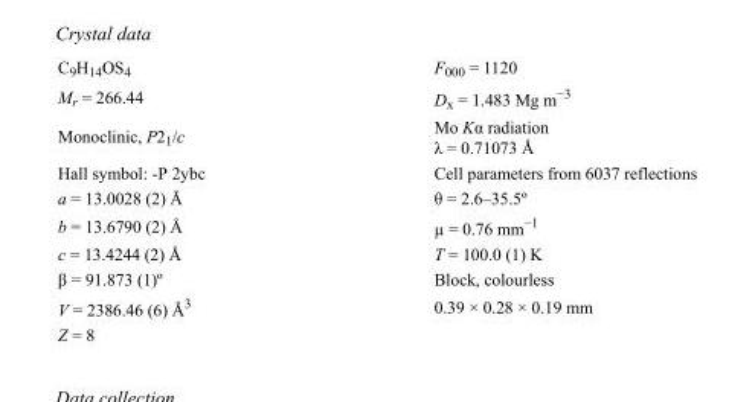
<table><tbody><tr><td>C<sub>9</sub>H<sub>14</sub>OS<sub>4</sub></td><td>F000 = 1120</td></tr><tr><td>M<sub>r</sub> = 266.44</td><td>D<sub>x</sub> = 1.483 Mg m<sup>−3</sup></td></tr><tr><td>Monoclinic, P2<sub>1</sub>/c</td><td>Mo Kα radiation λ = 0.71073 Å</td></tr><tr><td>Hall symbol: -P 2ybc</td><td>Cell parameters from 6037 reflections</td></tr><tr><td>a = 13.0028 (2) Å</td><td>θ = 2.6–35.5º</td></tr><tr><td>b = 13.6790 (2) Å</td><td>µ = 0.76 mm<sup>−1</sup></td></tr><tr><td>c = 13.4244 (2) Å</td><td>T = 100.0 (1) K</td></tr><tr><td>β = 91.873 (1)º</td><td>Block, colourless</td></tr><tr><td>V = 2386.46 (6) Å<sup>3</sup></td><td>0.39 × 0.28 × 0.19 mm</td></tr><tr><td>Z = 8</td><td></td></tr></tbody></table>